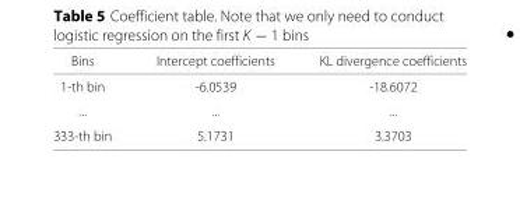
<table><thead><tr><td>Bins</td><td>Intercept coefficients</td><td>KL divergence coefficients</td></tr></thead><tbody><tr><td>1-th bin</td><td>-6.0539</td><td>-18.6072</td></tr><tr><td>...</td><td>...</td><td>...</td></tr><tr><td>333-th bin</td><td>5.1731</td><td>3.3703</td></tr></tbody></table>